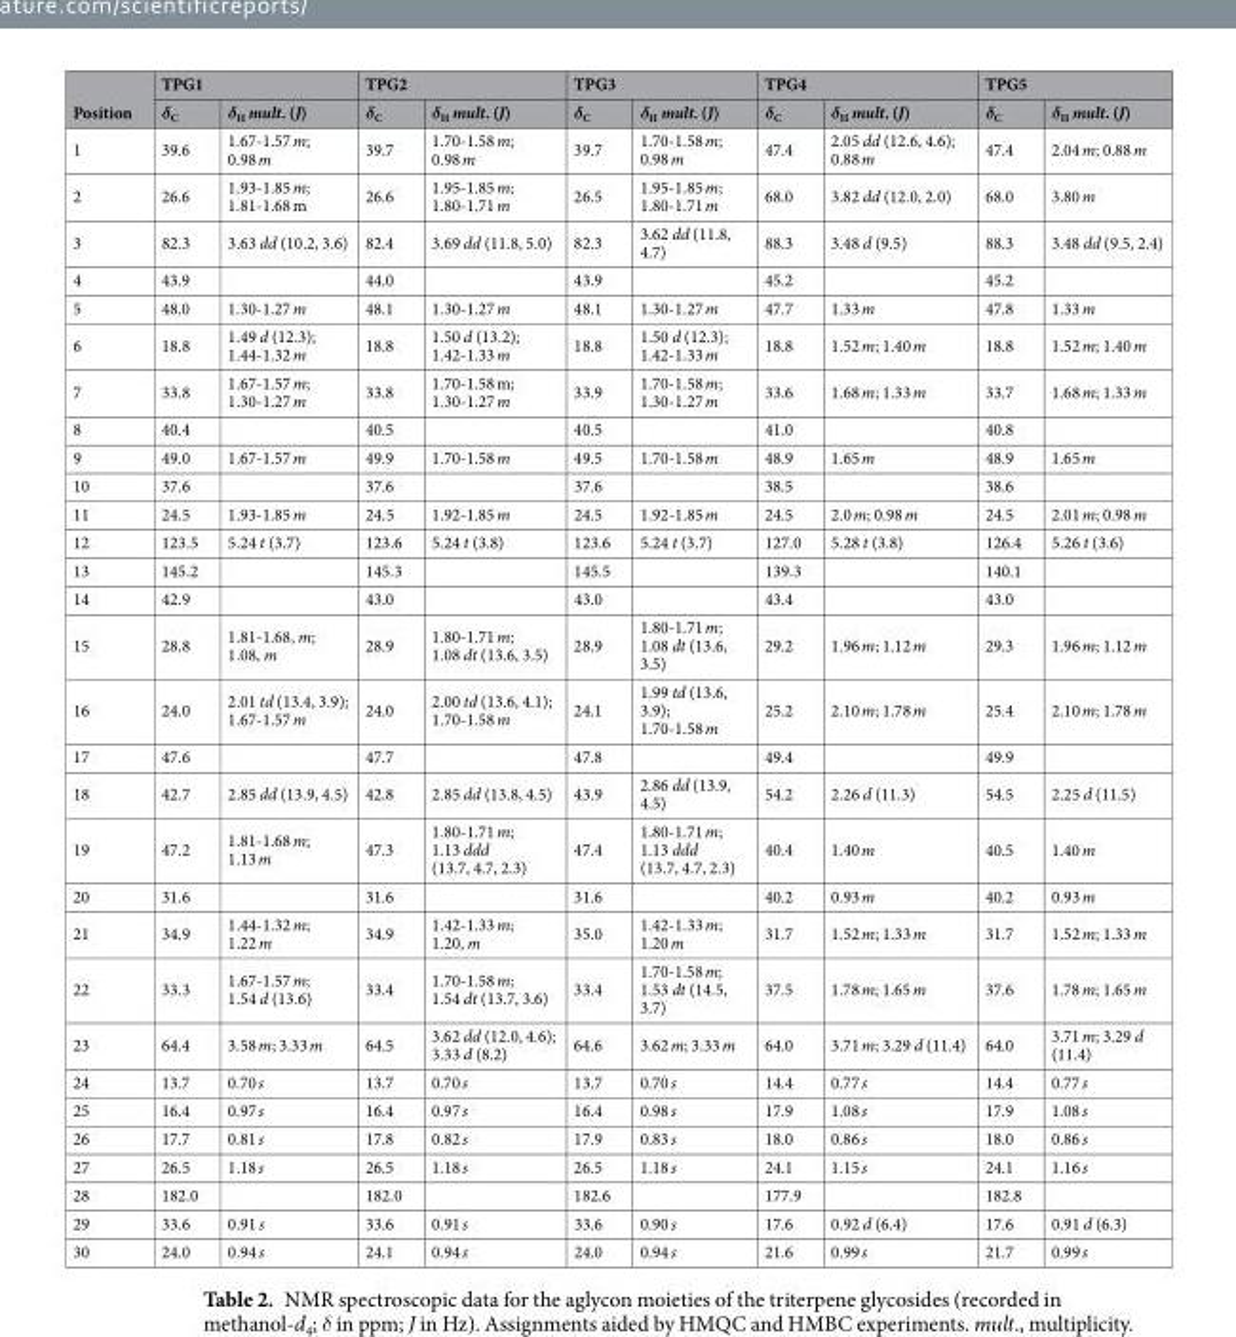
<table><thead><tr><td rowspan="2">Position</td><td colspan="2">TPG1</td><td colspan="2">TPG2</td><td colspan="2">TPG3</td><td colspan="2">TPG4</td><td colspan="2">TPG5</td></tr><tr><td>δ<sub>C</sub></td><td>δ<sub>H</sub> mult. (J)</td><td>δ<sub>C</sub></td><td>δ<sub>H</sub> mult. (J)</td><td>δ<sub>C</sub></td><td>δ<sub>H</sub> mult. (J)</td><td>δ<sub>C</sub></td><td>δ<sub>H</sub> mult. (J)</td><td>δ<sub>C</sub></td><td>δ<sub>H</sub> mult. (J)</td></tr></thead><tbody><tr><td>1</td><td>39.6</td><td>1.67-1.57 m; 0.98 m</td><td>39.7</td><td>1.70-1.58 m; 0.98 m</td><td>39.7</td><td>1.70-1.58 m; 0.98 m</td><td>47.4</td><td>2.05 dd (12.6, 4.6); 0.88 m</td><td>47.4</td><td>2.04 m; 0.88 m</td></tr><tr><td>2</td><td>26.6</td><td>1.93-1.85 m; 1.81-1.68 m</td><td>26.6</td><td>1.95-1.85 m; 1.80-1.71 m</td><td>26.5</td><td>1.95-1.85 m; 1.80-1.71 m</td><td>68.0</td><td>3.82 dd (12.0, 2.0)</td><td>68.0</td><td>3.80 m</td></tr><tr><td>3</td><td>82.3</td><td>3.63 dd (10.2, 3.6)</td><td>82.4</td><td>3.69 dd (11.8, 5.0)</td><td>82.3</td><td>3.62 dd (11.8, 4.7)</td><td>88.3</td><td>3.48 d (9.5)</td><td>88.3</td><td>3.48 dd (9.5, 2.4)</td></tr><tr><td>4</td><td>43.9</td><td></td><td>44.0</td><td></td><td>43.9</td><td></td><td>45.2</td><td></td><td>45.2</td><td></td></tr><tr><td>5</td><td>48.0</td><td>1.30-1.27 m</td><td>48.1</td><td>1.30-1.27 m</td><td>48.1</td><td>1.30-1.27 m</td><td>47.7</td><td>1.33 m</td><td>47.8</td><td>1.33 m</td></tr><tr><td>6</td><td>18.8</td><td>1.49 d (12.3); 1.44-1.32 m</td><td>18.8</td><td>1.50 d (13.2); 1.42-1.33 m</td><td>18.8</td><td>1.50 d (12.3); 1.42-1.33 m</td><td>18.8</td><td>1.52 m; 1.40 m</td><td>18.8</td><td>1.52 m; 1.40 m</td></tr><tr><td>7</td><td>33.8</td><td>1.67-1.57 m; 1.30-1.27 m</td><td>33.8</td><td>1.70-1.58 m; 1.30-1.27 m</td><td>33.9</td><td>1.70-1.58 m; 1.30-1.27 m</td><td>33.6</td><td>1.68 m; 1.33 m</td><td>33.7</td><td>1.68 m; 1.33 m</td></tr><tr><td>8</td><td>40.4</td><td></td><td>40.5</td><td></td><td>40.5</td><td></td><td>41.0</td><td></td><td>40.8</td><td></td></tr><tr><td>9</td><td>49.0</td><td>1.67-1.57 m</td><td>49.9</td><td>1.70-1.58 m</td><td>49.5</td><td>1.70-1.58 m</td><td>48.9</td><td>1.65 m</td><td>48.9</td><td>1.65 m</td></tr><tr><td>10</td><td>37.6</td><td></td><td>37.6</td><td></td><td>37.6</td><td></td><td>38.5</td><td></td><td>38.6</td><td></td></tr><tr><td>11</td><td>24.5</td><td>1.93-1.85 m</td><td>24.5</td><td>1.92-1.85 m</td><td>24.5</td><td>1.92-1.85 m</td><td>24.5</td><td>2.0 m; 0.98 m</td><td>24.5</td><td>2.01 m; 0.98 m</td></tr><tr><td>12</td><td>123.5</td><td>5.24 t (3.7)</td><td>123.6</td><td>5.24 t (3.8)</td><td>123.6</td><td>5.24 t (3.7)</td><td>127.0</td><td>5.28 t (3.8)</td><td>126.4</td><td>5.26 t (3.6)</td></tr><tr><td>13</td><td>145.2</td><td></td><td>145.3</td><td></td><td>145.5</td><td></td><td>139.3</td><td></td><td>140.1</td><td></td></tr><tr><td>14</td><td>42.9</td><td></td><td>43.0</td><td></td><td>43.0</td><td></td><td>43.4</td><td></td><td>43.0</td><td></td></tr><tr><td>15</td><td>28.8</td><td>1.81-1.68, m; 1.08, m</td><td>28.9</td><td>1.80-1.71 m; 1.08 dt (13.6, 3.5)</td><td>28.9</td><td>1.80-1.71 m; 1.08 dt (13.6, 3.5)</td><td>29.2</td><td>1.96 m; 1.12 m</td><td>29.3</td><td>1.96 m; 1.12 m</td></tr><tr><td>16</td><td>24.0</td><td>2.01 td (13.4, 3.9); 1.67-1.57 m</td><td>24.0</td><td>2.00 td (13.6, 4.1); 1.70-1.58 m</td><td>24.1</td><td>1.99 td (13.6, 3.9); 1.70-1.58 m</td><td>25.2</td><td>2.10 m; 1.78 m</td><td>25.4</td><td>2.10 m; 1.78 m</td></tr><tr><td>17</td><td>47.6</td><td></td><td>47.7</td><td></td><td>47.8</td><td></td><td>49.4</td><td></td><td>49.9</td><td></td></tr><tr><td>18</td><td>42.7</td><td>2.85 dd (13.9, 4.5)</td><td>42.8</td><td>2.85 dd (13.8, 4.5)</td><td>43.9</td><td>2.86 dd (13.9, 4.5)</td><td>54.2</td><td>2.26 d (11.3)</td><td>54.5</td><td>2.25 d (11.5)</td></tr><tr><td>19</td><td>47.2</td><td>1.81-1.68 m; 1.13 m</td><td>47.3</td><td>1.80-1.71 m; 1.13 ddd (13.7, 4.7, 2.3)</td><td>47.4</td><td>1.80-1.71 m; 1.13 ddd (13.7, 4.7, 2.3)</td><td>40.4</td><td>1.40 m</td><td>40.5</td><td>1.40 m</td></tr><tr><td>20</td><td>31.6</td><td></td><td>31.6</td><td></td><td>31.6</td><td></td><td>40.2</td><td>0.93 m</td><td>40.2</td><td>0.93 m</td></tr><tr><td>21</td><td>34.9</td><td>1.44-1.32 m; 1.22 m</td><td>34.9</td><td>1.42-1.33 m; 1.20, m</td><td>35.0</td><td>1.42-1.33 m; 1.20 m</td><td>31.7</td><td>1.52 m; 1.33 m</td><td>31.7</td><td>1.52 m; 1.33 m</td></tr><tr><td>22</td><td>33.3</td><td>1.67-1.57 m; 1.54 d (13.6)</td><td>33.4</td><td>1.70-1.58 m; 1.54 dt (13.7, 3.6)</td><td>33.4</td><td>1.70-1.58 m; 1.53 dt (14.5, 3.7)</td><td>37.5</td><td>1.78 m; 1.65 m</td><td>37.6</td><td>1.78 m; 1.65 m</td></tr><tr><td>23</td><td>64.4</td><td>3.58 m; 3.33 m</td><td>64.5</td><td>3.62 dd (12.0, 4.6); 3.33 d (8.2)</td><td>64.6</td><td>3.62 m; 3.33 m</td><td>64.0</td><td>3.71 m; 3.29 d (11.4)</td><td>64.0</td><td>3.71 m; 3.29 d (11.4)</td></tr><tr><td>24</td><td>13.7</td><td>0.70 s</td><td>13.7</td><td>0.70 s</td><td>13.7</td><td>0.70 s</td><td>14.4</td><td>0.77 s</td><td>14.4</td><td>0.77 s</td></tr><tr><td>25</td><td>16.4</td><td>0.97 s</td><td>16.4</td><td>0.97 s</td><td>16.4</td><td>0.98 s</td><td>17.9</td><td>1.08 s</td><td>17.9</td><td>1.08 s</td></tr><tr><td>26</td><td>17.7</td><td>0.81 s</td><td>17.8</td><td>0.82 s</td><td>17.9</td><td>0.83 s</td><td>18.0</td><td>0.86 s</td><td>18.0</td><td>0.86 s</td></tr><tr><td>27</td><td>26.5</td><td>1.18 s</td><td>26.5</td><td>1.18 s</td><td>26.5</td><td>1.18 s</td><td>24.1</td><td>1.15 s</td><td>24.1</td><td>1.16 s</td></tr><tr><td>28</td><td>182.0</td><td></td><td>182.0</td><td></td><td>182.6</td><td></td><td>177.9</td><td></td><td>182.8</td><td></td></tr><tr><td>29</td><td>33.6</td><td>0.91 s</td><td>33.6</td><td>0.91 s</td><td>33.6</td><td>0.90 s</td><td>17.6</td><td>0.92 d (6.4)</td><td>17.6</td><td>0.91 d (6.3)</td></tr><tr><td>30</td><td>24.0</td><td>0.94 s</td><td>24.1</td><td>0.94 s</td><td>24.0</td><td>0.94 s</td><td>21.6</td><td>0.99 s</td><td>21.7</td><td>0.99 s</td></tr></tbody></table>